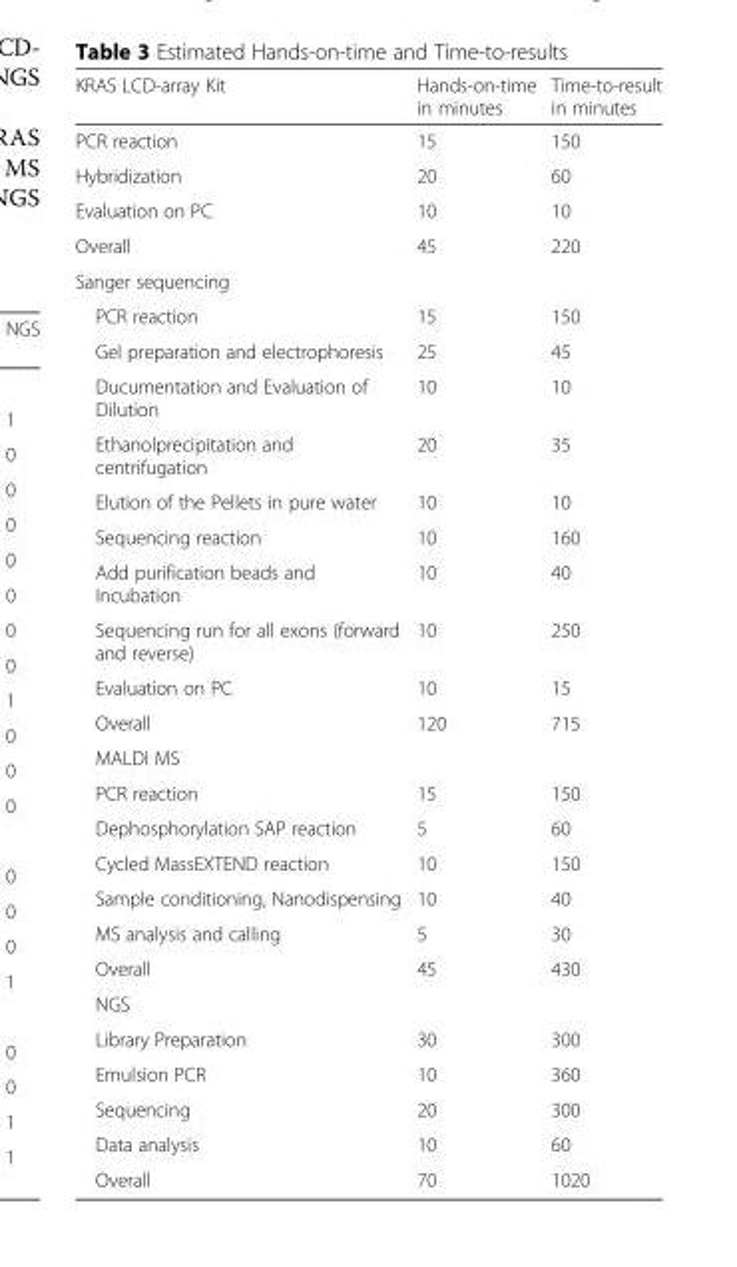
<table><thead><tr><td>KRAS LCD-array Kit</td><td>Hands-on-time in minutes</td><td>Time-to-result in minutes</td></tr></thead><tbody><tr><td>PCR reaction</td><td>15</td><td>150</td></tr><tr><td>Hybridization</td><td>20</td><td>60</td></tr><tr><td>Evaluation on PC</td><td>10</td><td>10</td></tr><tr><td>Overall</td><td>45</td><td>220</td></tr><tr><td colspan="3">Sanger sequencing</td></tr><tr><td>PCR reaction</td><td>15</td><td>150</td></tr><tr><td>Gel preparation and electrophoresis</td><td>25</td><td>45</td></tr><tr><td>Ducumentation and Evaluation of Dilution</td><td>10</td><td>10</td></tr><tr><td>Ethanolprecipitation and centrifugation</td><td>20</td><td>35</td></tr><tr><td>Elution of the Pellets in pure water</td><td>10</td><td>10</td></tr><tr><td>Sequencing reaction</td><td>10</td><td>160</td></tr><tr><td>Add purification beads and Incubation</td><td>10</td><td>40</td></tr><tr><td>Sequencing run for all exons (forward and reverse)</td><td>10</td><td>250</td></tr><tr><td>Evaluation on PC</td><td>10</td><td>15</td></tr><tr><td>Overall</td><td>120</td><td>715</td></tr><tr><td colspan="3">MALDI MS</td></tr><tr><td>PCR reaction</td><td>15</td><td>150</td></tr><tr><td>Dephosphorylation SAP reaction</td><td>5</td><td>60</td></tr><tr><td>Cycled MassEXTEND reaction</td><td>10</td><td>150</td></tr><tr><td>Sample conditioning, Nanodispensing</td><td>10</td><td>40</td></tr><tr><td>MS analysis and calling</td><td>5</td><td>30</td></tr><tr><td>Overall</td><td>45</td><td>430</td></tr><tr><td colspan="3">NGS</td></tr><tr><td>Library Preparation</td><td>30</td><td>300</td></tr><tr><td>Emulsion PCR</td><td>10</td><td>360</td></tr><tr><td>Sequencing</td><td>20</td><td>300</td></tr><tr><td>Data analysis</td><td>10</td><td>60</td></tr><tr><td>Overall</td><td>70</td><td>1020</td></tr></tbody></table>